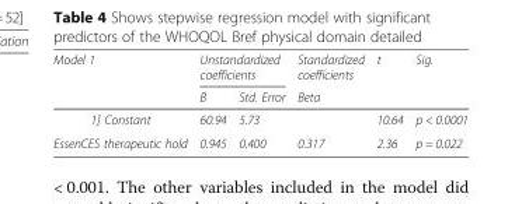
<table><thead><tr><td rowspan="2">Model 1</td><td colspan="2">Unstandardized coefficients</td><td rowspan="2">Standardized coefficients Beta</td><td rowspan="2">t</td><td rowspan="2">Sig.</td></tr><tr><td>B</td><td>Std. Error</td></tr></thead><tbody><tr><td>1] Constant</td><td>60.94</td><td>5.73</td><td></td><td>10.64</td><td>p &lt; 0.0001</td></tr><tr><td>EssenCES therapeutic hold</td><td>0.945</td><td>0.400</td><td>0.317</td><td>2.36</td><td>p = 0.022</td></tr></tbody></table>